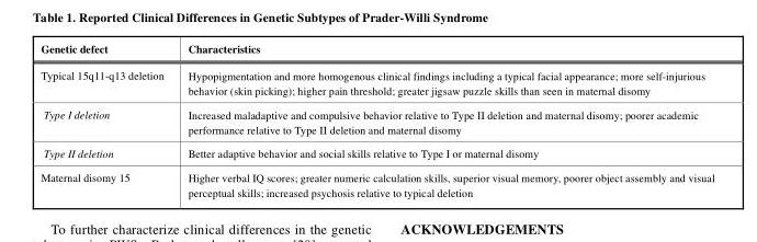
<table><thead><tr><td>Genetic defect</td><td>Characteristics</td></tr></thead><tbody><tr><td>Typical 15q11-q13 deletion</td><td>Hypopigmentation and more homogenous clinical findings including a typical facial appearance; more self-injurious behavior (skin picking); higher pain threshold; greater jigsaw puzzle skills than seen in maternal disomy</td></tr><tr><td>Type I deletion</td><td>Increased maladaptive and compulsive behavior relative to Type II deletion and maternal disomy; poorer academic performance relative to Type II deletion and maternal disomy</td></tr><tr><td>Type II deletion</td><td>Better adaptive behavior and social skills relative to Type I or maternal disomy</td></tr><tr><td>Maternal disomy 15</td><td>Higher verbal IQ scores; greater numeric calculation skills, superior visual memory, poorer object assembly and visual perceptual skills; increased psychosis relative to typical deletion</td></tr></tbody></table>